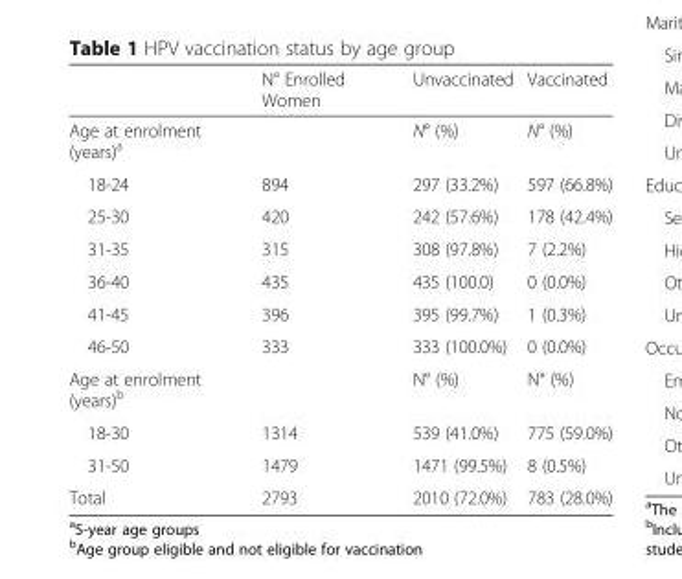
<table><thead><tr><td></td><td>N° Enrolled Women</td><td>Unvaccinated</td><td>Vaccinated</td></tr></thead><tbody><tr><td>Age at enrolment (years)<sup>a</sup></td><td></td><td>N° (%)</td><td>N° (%)</td></tr><tr><td>18-24</td><td>894</td><td>297 (33.2%)</td><td>597 (66.8%)</td></tr><tr><td>25-30</td><td>420</td><td>242 (57.6%)</td><td>178 (42.4%)</td></tr><tr><td>31-35</td><td>315</td><td>308 (97.8%)</td><td>7 (2.2%)</td></tr><tr><td>36-40</td><td>435</td><td>435 (100.0)</td><td>0 (0.0%)</td></tr><tr><td>41-45</td><td>396</td><td>395 (99.7%)</td><td>1 (0.3%)</td></tr><tr><td>46-50</td><td>333</td><td>333 (100.0%)</td><td>0 (0.0%)</td></tr><tr><td>Age at enrolment (years)<sup>b</sup></td><td></td><td>N° (%)</td><td>N° (%)</td></tr><tr><td>18-30</td><td>1314</td><td>539 (41.0%)</td><td>775 (59.0%)</td></tr><tr><td>31-50</td><td>1479</td><td>1471 (99.5%)</td><td>8 (0.5%)</td></tr><tr><td>Total</td><td>2793</td><td>2010 (72.0%)</td><td>783 (28.0%)</td></tr></tbody></table>